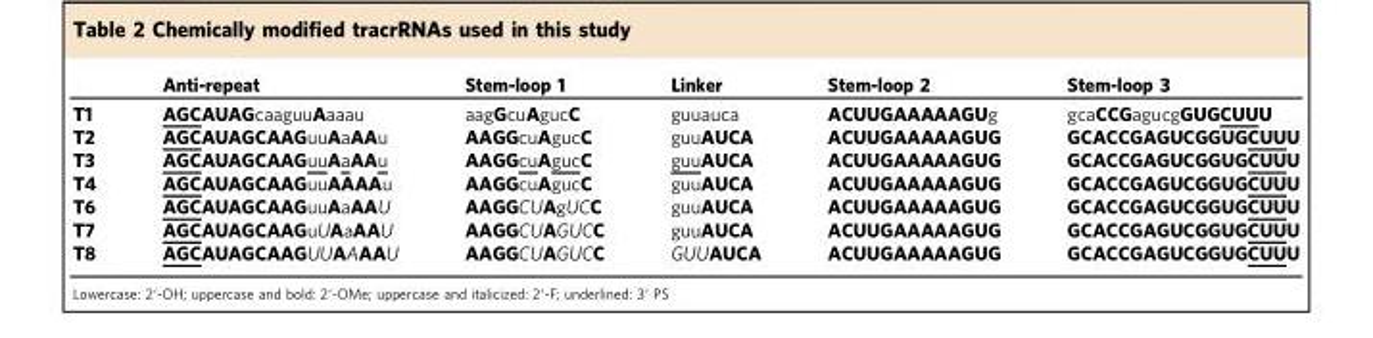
<table><thead><tr><td></td><td>Anti-repeat</td><td>Stem-loop 1</td><td>Linker</td><td>Stem-loop 2</td><td>Stem-loop 3</td></tr></thead><tbody><tr><td>T1</td><td>AGCAUAGcaaguuAaaau</td><td>aagGcuAgucC</td><td>guuauca</td><td>ACUUGAAAAAGUg</td><td>gcaCCGagucgGUGCUUU</td></tr><tr><td>T2</td><td>AGCAUAGCAAGuuAaAAu</td><td>AAGGcuAgucC</td><td>guuAUCA</td><td>ACUUGAAAAAGUG</td><td>GCACCGAGUCGGUGCUUU</td></tr><tr><td>T3</td><td>AGCAUAGCAAGuuAaAAu</td><td>AAGGcuAgucC</td><td>guuAUCA</td><td>ACUUGAAAAAGUG</td><td>GCACCGAGUCGGUGCUUU</td></tr><tr><td>T4</td><td>AGCAUAGCAAGuuAAAAu</td><td>AAGGcuAgucC</td><td>guuAUCA</td><td>ACUUGAAAAAGUG</td><td>GCACCGAGUCGGUGCUUU</td></tr><tr><td>T6</td><td>AGCAUAGCAAGuuAaAAU</td><td>AAGGCUAgUCC</td><td>guuAUCA</td><td>ACUUGAAAAAGUG</td><td>GCACCGAGUCGGUGCUUU</td></tr><tr><td>T7</td><td>AGCAUAGCAAGuUAaAAU</td><td>AAGGCUAGUCC</td><td>guuAUCA</td><td>ACUUGAAAAAGUG</td><td>GCACCGAGUCGGUGCUUU</td></tr><tr><td>T8</td><td>AGCAUAGCAAGUUAAAAU</td><td>AAGGCUAGUCC</td><td>GUUAUCA</td><td>ACUUGAAAAAGUG</td><td>GCACCGAGUCGGUGCUUU</td></tr></tbody></table>